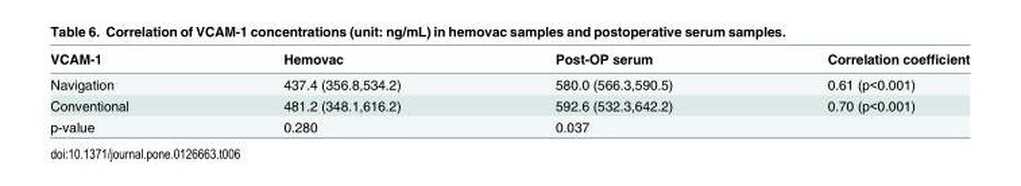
<table><thead><tr><td>VCAM-1</td><td>Hemovac</td><td>Post-OP serum</td><td>Correlation coefficient</td></tr></thead><tbody><tr><td>Navigation</td><td>437.4 (356.8,534.2)</td><td>580.0 (566.3,590.5)</td><td>0.61 (p&lt;0.001)</td></tr><tr><td>Conventional</td><td>481.2 (348.1,616.2)</td><td>592.6 (532.3,642.2)</td><td>0.70 (p&lt;0.001)</td></tr><tr><td>p-value</td><td>0.280</td><td>0.037</td><td></td></tr></tbody></table>